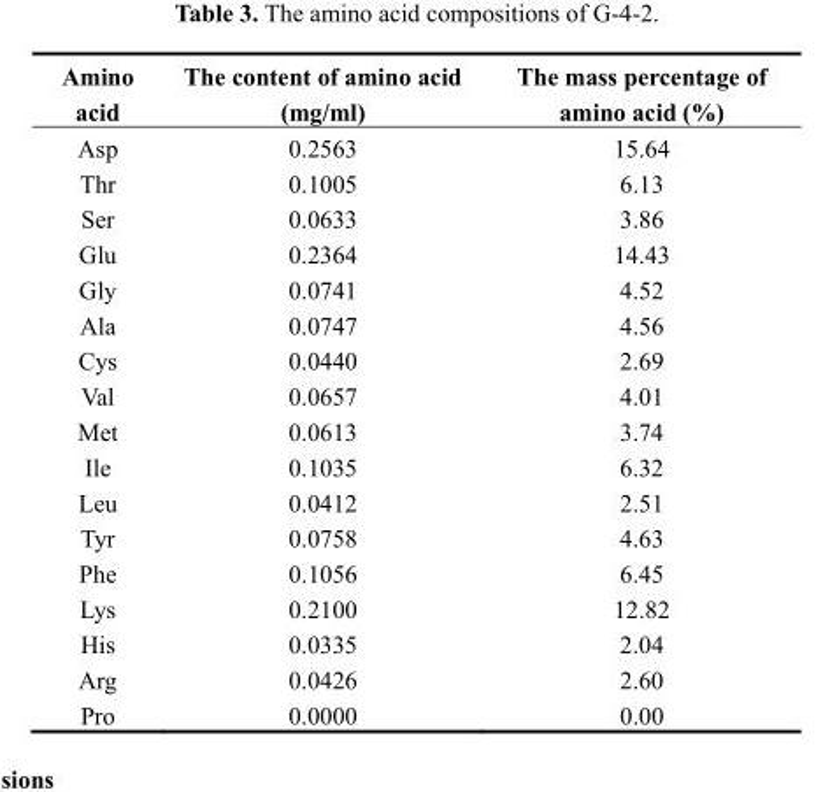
<table><thead><tr><td>Amino acid</td><td>The content of amino acid (mg/ml)</td><td>The mass percentage of amino acid (%)</td></tr></thead><tbody><tr><td>Asp</td><td>0.2563</td><td>15.64</td></tr><tr><td>Thr</td><td>0.1005</td><td>6.13</td></tr><tr><td>Ser</td><td>0.0633</td><td>3.86</td></tr><tr><td>Glu</td><td>0.2364</td><td>14.43</td></tr><tr><td>Gly</td><td>0.0741</td><td>4.52</td></tr><tr><td>Ala</td><td>0.0747</td><td>4.56</td></tr><tr><td>Cys</td><td>0.0440</td><td>2.69</td></tr><tr><td>Val</td><td>0.0657</td><td>4.01</td></tr><tr><td>Met</td><td>0.0613</td><td>3.74</td></tr><tr><td>Ile</td><td>0.1035</td><td>6.32</td></tr><tr><td>Leu</td><td>0.0412</td><td>2.51</td></tr><tr><td>Tyr</td><td>0.0758</td><td>4.63</td></tr><tr><td>Phe</td><td>0.1056</td><td>6.45</td></tr><tr><td>Lys</td><td>0.2100</td><td>12.82</td></tr><tr><td>His</td><td>0.0335</td><td>2.04</td></tr><tr><td>Arg</td><td>0.0426</td><td>2.60</td></tr><tr><td>Pro</td><td>0.0000</td><td>0.00</td></tr></tbody></table>